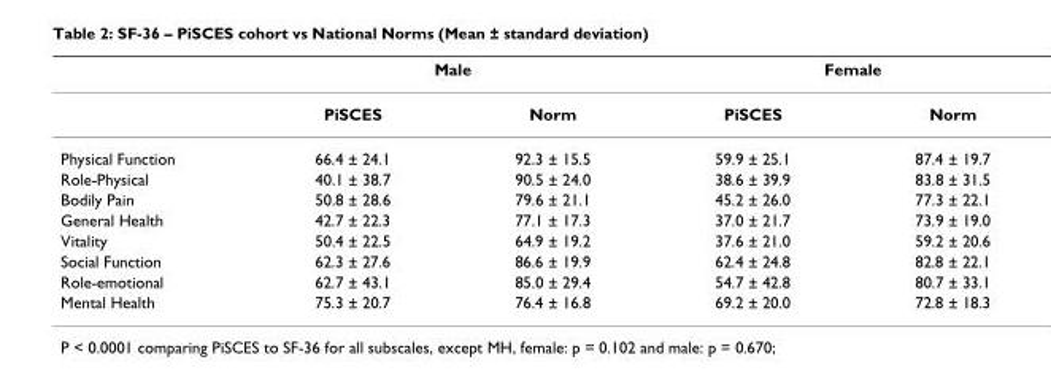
<table><thead><tr><td rowspan="2"></td><td colspan="2">Male</td><td colspan="2">Female</td></tr><tr><td>PiSCES</td><td>Norm</td><td>PiSCES</td><td>Norm</td></tr></thead><tbody><tr><td>Physical Function</td><td>66.4 ± 24.1</td><td>92.3 ± 15.5</td><td>59.9 ± 25.1</td><td>87.4 ± 19.7</td></tr><tr><td>Role-Physical</td><td>40.1 ± 38.7</td><td>90.5 ± 24.0</td><td>38.6 ± 39.9</td><td>83.8 ± 31.5</td></tr><tr><td>Bodily Pain</td><td>50.8 ± 28.6</td><td>79.6 ± 21.1</td><td>45.2 ± 26.0</td><td>77.3 ± 22.1</td></tr><tr><td>General Health</td><td>42.7 ± 22.3</td><td>77.1 ± 17.3</td><td>37.0 ± 21.7</td><td>73.9 ± 19.0</td></tr><tr><td>Vitality</td><td>50.4 ± 22.5</td><td>64.9 ± 19.2</td><td>37.6 ± 21.0</td><td>59.2 ± 20.6</td></tr><tr><td>Social Function</td><td>62.3 ± 27.6</td><td>86.6 ± 19.9</td><td>62.4 ± 24.8</td><td>82.8 ± 22.1</td></tr><tr><td>Role-emotional</td><td>62.7 ± 43.1</td><td>85.0 ± 29.4</td><td>54.7 ± 42.8</td><td>80.7 ± 33.1</td></tr><tr><td>Mental Health</td><td>75.3 ± 20.7</td><td>76.4 ± 16.8</td><td>69.2 ± 20.0</td><td>72.8 ± 18.3</td></tr></tbody></table>